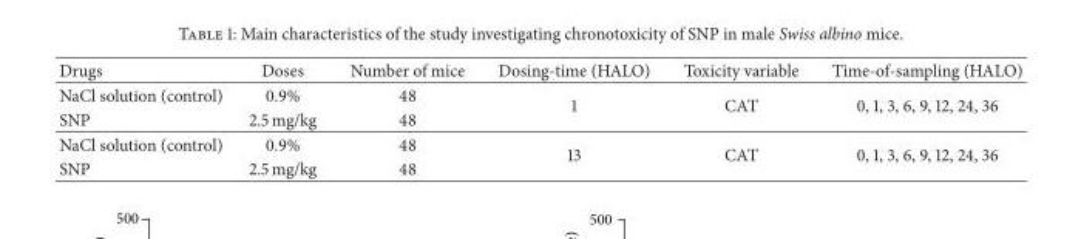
<table><thead><tr><td>Drugs</td><td>Doses</td><td>Number of mice</td><td>Dosing-time (HALO)</td><td>Toxicity variable</td><td>Time-of-sampling (HALO)</td></tr></thead><tbody><tr><td>NaCl solution (control)</td><td>0.9%</td><td>48</td><td rowspan="2">1</td><td rowspan="2">CAT</td><td rowspan="2">0, 1, 3, 6, 9, 12, 24, 36</td></tr><tr><td>SNP</td><td>2.5 mg/kg</td><td>48</td></tr><tr><td>NaCl solution (control)</td><td>0.9%</td><td>48</td><td rowspan="2">13</td><td rowspan="2">CAT</td><td rowspan="2">0, 1, 3, 6, 9, 12, 24, 36</td></tr><tr><td>SNP</td><td>2.5 mg/kg</td><td>48</td></tr></tbody></table>